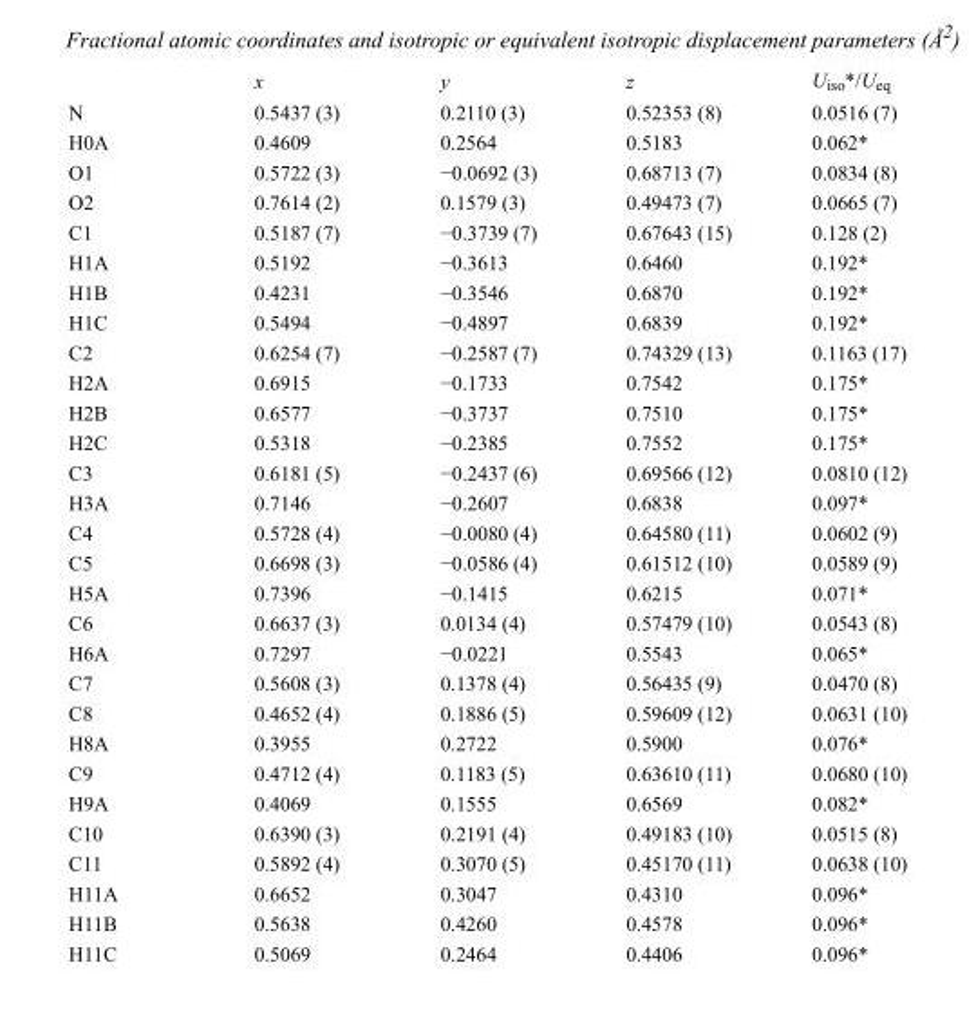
<table><thead><tr><td></td><td>x</td><td>y</td><td>z</td><td>U<sub>iso</sub>*/U<sub>eq</sub></td></tr></thead><tbody><tr><td>N</td><td>0.5437 (3)</td><td>0.2110 (3)</td><td>0.52353 (8)</td><td>0.0516 (7)</td></tr><tr><td>H0A</td><td>0.4609</td><td>0.2564</td><td>0.5183</td><td>0.062*</td></tr><tr><td>O1</td><td>0.5722 (3)</td><td>−0.0692 (3)</td><td>0.68713 (7)</td><td>0.0834 (8)</td></tr><tr><td>O2</td><td>0.7614 (2)</td><td>0.1579 (3)</td><td>0.49473 (7)</td><td>0.0665 (7)</td></tr><tr><td>C1</td><td>0.5187 (7)</td><td>−0.3739 (7)</td><td>0.67643 (15)</td><td>0.128 (2)</td></tr><tr><td>H1A</td><td>0.5192</td><td>−0.3613</td><td>0.6460</td><td>0.192*</td></tr><tr><td>H1B</td><td>0.4231</td><td>−0.3546</td><td>0.6870</td><td>0.192*</td></tr><tr><td>H1C</td><td>0.5494</td><td>−0.4897</td><td>0.6839</td><td>0.192*</td></tr><tr><td>C2</td><td>0.6254 (7)</td><td>−0.2587 (7)</td><td>0.74329 (13)</td><td>0.1163 (17)</td></tr><tr><td>H2A</td><td>0.6915</td><td>−0.1733</td><td>0.7542</td><td>0.175*</td></tr><tr><td>H2B</td><td>0.6577</td><td>−0.3737</td><td>0.7510</td><td>0.175*</td></tr><tr><td>H2C</td><td>0.5318</td><td>−0.2385</td><td>0.7552</td><td>0.175*</td></tr><tr><td>C3</td><td>0.6181 (5)</td><td>−0.2437 (6)</td><td>0.69566 (12)</td><td>0.0810 (12)</td></tr><tr><td>H3A</td><td>0.7146</td><td>−0.2607</td><td>0.6838</td><td>0.097*</td></tr><tr><td>C4</td><td>0.5728 (4)</td><td>−0.0080 (4)</td><td>0.64580 (11)</td><td>0.0602 (9)</td></tr><tr><td>C5</td><td>0.6698 (3)</td><td>−0.0586 (4)</td><td>0.61512 (10)</td><td>0.0589 (9)</td></tr><tr><td>H5A</td><td>0.7396</td><td>−0.1415</td><td>0.6215</td><td>0.071*</td></tr><tr><td>C6</td><td>0.6637 (3)</td><td>0.0134 (4)</td><td>0.57479 (10)</td><td>0.0543 (8)</td></tr><tr><td>H6A</td><td>0.7297</td><td>−0.0221</td><td>0.5543</td><td>0.065*</td></tr><tr><td>C7</td><td>0.5608 (3)</td><td>0.1378 (4)</td><td>0.56435 (9)</td><td>0.0470 (8)</td></tr><tr><td>C8</td><td>0.4652 (4)</td><td>0.1886 (5)</td><td>0.59609 (12)</td><td>0.0631 (10)</td></tr><tr><td>H8A</td><td>0.3955</td><td>0.2722</td><td>0.5900</td><td>0.076*</td></tr><tr><td>C9</td><td>0.4712 (4)</td><td>0.1183 (5)</td><td>0.63610 (11)</td><td>0.0680 (10)</td></tr><tr><td>H9A</td><td>0.4069</td><td>0.1555</td><td>0.6569</td><td>0.082*</td></tr><tr><td>C10</td><td>0.6390 (3)</td><td>0.2191 (4)</td><td>0.49183 (10)</td><td>0.0515 (8)</td></tr><tr><td>C11</td><td>0.5892 (4)</td><td>0.3070 (5)</td><td>0.45170 (11)</td><td>0.0638 (10)</td></tr><tr><td>H11A</td><td>0.6652</td><td>0.3047</td><td>0.4310</td><td>0.096*</td></tr><tr><td>H11B</td><td>0.5638</td><td>0.4260</td><td>0.4578</td><td>0.096*</td></tr><tr><td>H11C</td><td>0.5069</td><td>0.2464</td><td>0.4406</td><td>0.096*</td></tr></tbody></table>